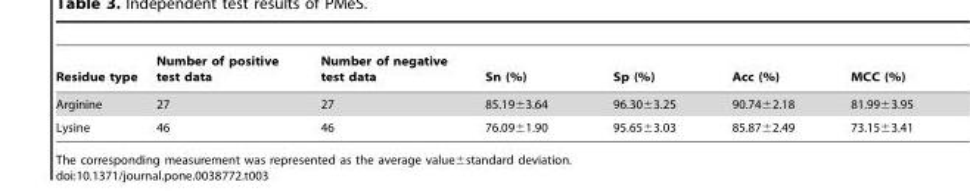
<table><thead><tr><td>Residue type</td><td>Number of positive test data</td><td>Number of negative test data</td><td>Sn (%)</td><td>Sp (%)</td><td>Acc (%)</td><td>MCC (%)</td></tr></thead><tbody><tr><td>Arginine</td><td>27</td><td>27</td><td>85.19±3.64</td><td>96.30±3.25</td><td>90.74±2.18</td><td>81.99±3.95</td></tr><tr><td>Lysine</td><td>46</td><td>46</td><td>76.09±1.90</td><td>95.65±3.03</td><td>85.87±2.49</td><td>73.15±3.41</td></tr></tbody></table>